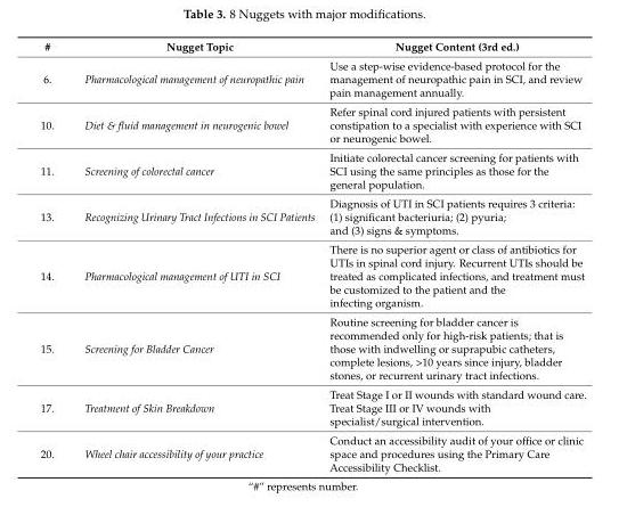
<table><thead><tr><td>#</td><td>Nugget Topic</td><td>Nugget Content (3rd ed.)</td></tr></thead><tbody><tr><td>6.</td><td>Pharmacological management of neuropathic pain</td><td>Use a step-wise evidence-based protocol for the management of neuropathic pain in SCI, and review pain management annually.</td></tr><tr><td>10.</td><td>Diet &amp; fluid management in neurogenic bowel</td><td>Refer spinal cord injured patients with persistent constipation to a specialist with experience with SCI or neurogenic bowel.</td></tr><tr><td>11.</td><td>Screening of colorectal cancer</td><td>Initiate colorectal cancer screening for patients with SCI using the same principles as those for the general population.</td></tr><tr><td>13.</td><td>Recognizing Urinary Tract Infections in SCI Patients</td><td>Diagnosis of UTI in SCI patients requires 3 criteria: (1) significant bacteriuria; (2) pyuria; and (3) signs &amp; symptoms.</td></tr><tr><td>14.</td><td>Pharmacological management of UTI in SCI</td><td>There is no superior agent or class of antibiotics for UTIs in spinal cord injury. Recurrent UTIs should be treated as complicated infections, and treatment must be customized to the patient and the infecting organism.</td></tr><tr><td>15.</td><td>Screening for Bladder Cancer</td><td>Routine screening for bladder cancer is recommended only for high-risk patients; that is those with indwelling or suprapubic catheters, complete lesions, &gt;10 years since injury, bladder stones, or recurrent urinary tract infections.</td></tr><tr><td>17.</td><td>Treatment of Skin Breakdown</td><td>Treat Stage I or II wounds with standard wound care. Treat Stage III or IV wounds with specialist/surgical intervention.</td></tr><tr><td>20.</td><td>Wheel chair accessibility of your practice</td><td>Conduct an accessibility audit of your office or clinic space and procedures using the Primary Care Accessibility Checklist.</td></tr></tbody></table>